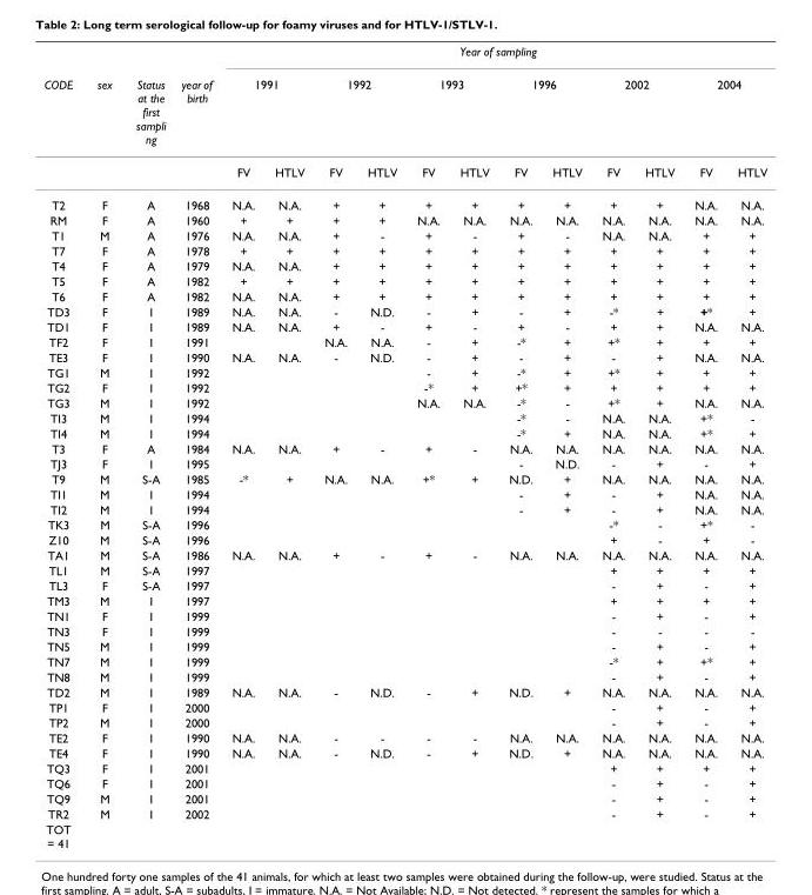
<table><thead><tr><td rowspan="3">CODE</td><td rowspan="3">sex</td><td rowspan="3">Status at the first sampli ng</td><td rowspan="3">year of birth</td><td colspan="12">Year of sampling</td></tr><tr><td colspan="2">1991</td><td colspan="2">1992</td><td colspan="2">1993</td><td colspan="2">1996</td><td colspan="2">2002</td><td colspan="2">2004</td></tr><tr><td>FV</td><td>HTLV</td><td>FV</td><td>HTLV</td><td>FV</td><td>HTLV</td><td>FV</td><td>HTLV</td><td>FV</td><td>HTLV</td><td>FV</td><td>HTLV</td></tr></thead><tbody><tr><td>T2</td><td>F</td><td>A</td><td>1968</td><td>N.A.</td><td>N.A.</td><td>+</td><td>+</td><td>+</td><td>+</td><td>+</td><td>+</td><td>+</td><td>+</td><td>N.A.</td><td>N.A.</td></tr><tr><td>RM</td><td>F</td><td>A</td><td>1960</td><td>+</td><td>+</td><td>+</td><td>+</td><td>N.A.</td><td>N.A.</td><td>N.A.</td><td>N.A.</td><td>N.A.</td><td>N.A.</td><td>N.A.</td><td>N.A.</td></tr><tr><td>T1</td><td>M</td><td>A</td><td>1976</td><td>N.A.</td><td>N.A.</td><td>+</td><td>-</td><td>+</td><td>-</td><td>+</td><td>-</td><td>N.A.</td><td>N.A.</td><td>+</td><td>+</td></tr><tr><td>T7</td><td>F</td><td>A</td><td>1978</td><td>+</td><td>+</td><td>+</td><td>+</td><td>+</td><td>+</td><td>+</td><td>+</td><td>+</td><td>+</td><td>+</td><td>+</td></tr><tr><td>T4</td><td>F</td><td>A</td><td>1979</td><td>N.A.</td><td>N.A.</td><td>+</td><td>+</td><td>+</td><td>+</td><td>+</td><td>+</td><td>+</td><td>+</td><td>+</td><td>+</td></tr><tr><td>T5</td><td>F</td><td>A</td><td>1982</td><td>+</td><td>+</td><td>+</td><td>+</td><td>+</td><td>+</td><td>+</td><td>+</td><td>+</td><td>+</td><td>+</td><td>+</td></tr><tr><td>T6</td><td>F</td><td>A</td><td>1982</td><td>N.A.</td><td>N.A.</td><td>+</td><td>+</td><td>+</td><td>+</td><td>+</td><td>+</td><td>+</td><td>+</td><td>+</td><td>+</td></tr><tr><td>TD3</td><td>F</td><td>I</td><td>1989</td><td>N.A.</td><td>N.A.</td><td>-</td><td>N.D.</td><td>-</td><td>+</td><td>-</td><td>+</td><td>-*</td><td>+</td><td>+*</td><td>+</td></tr><tr><td>TD1</td><td>F</td><td>I</td><td>1989</td><td>N.A.</td><td>N.A.</td><td>+</td><td>-</td><td>+</td><td>-</td><td>+</td><td>-</td><td>+</td><td>+</td><td>N.A.</td><td>N.A.</td></tr><tr><td>TF2</td><td>F</td><td>I</td><td>1991</td><td></td><td></td><td>N.A.</td><td>N.A.</td><td>-</td><td>+</td><td>-*</td><td>+</td><td>+*</td><td>+</td><td>+</td><td>+</td></tr><tr><td>TE3</td><td>F</td><td>I</td><td>1990</td><td>N.A.</td><td>N.A.</td><td>-</td><td>N.D.</td><td>-</td><td>+</td><td>-</td><td>+</td><td>-</td><td>+</td><td>N.A.</td><td>N.A.</td></tr><tr><td>TG1</td><td>M</td><td>I</td><td>1992</td><td></td><td></td><td></td><td></td><td>-</td><td>+</td><td>-*</td><td>+</td><td>+*</td><td>+</td><td>+</td><td>+</td></tr><tr><td>TG2</td><td>F</td><td>I</td><td>1992</td><td></td><td></td><td></td><td></td><td>-*</td><td>+</td><td>+*</td><td>+</td><td>+</td><td>+</td><td>+</td><td>+</td></tr><tr><td>TG3</td><td>M</td><td>I</td><td>1992</td><td></td><td></td><td></td><td></td><td>N.A.</td><td>N.A.</td><td>-*</td><td>-</td><td>+*</td><td>+</td><td>N.A.</td><td>N.A.</td></tr><tr><td>TI3</td><td>M</td><td>I</td><td>1994</td><td></td><td></td><td></td><td></td><td></td><td></td><td>-*</td><td>-</td><td>N.A.</td><td>N.A.</td><td>+*</td><td>-</td></tr><tr><td>TI4</td><td>M</td><td>I</td><td>1994</td><td></td><td></td><td></td><td></td><td></td><td></td><td>-*</td><td>+</td><td>N.A.</td><td>N.A.</td><td>+*</td><td>+</td></tr><tr><td>T3</td><td>F</td><td>A</td><td>1984</td><td>N.A.</td><td>N.A.</td><td>+</td><td>-</td><td>+</td><td>-</td><td>N.A.</td><td>N.A.</td><td>N.A.</td><td>N.A.</td><td>N.A.</td><td>N.A.</td></tr><tr><td>TJ3</td><td>F</td><td>I</td><td>1995</td><td></td><td></td><td></td><td></td><td></td><td></td><td>-</td><td>N.D.</td><td>-</td><td>+</td><td>-</td><td>+</td></tr><tr><td>T9</td><td>M</td><td>S-A</td><td>1985</td><td>-*</td><td>+</td><td>N.A.</td><td>N.A.</td><td>+*</td><td>+</td><td>N.D.</td><td>+</td><td>N.A.</td><td>N.A.</td><td>N.A.</td><td>N.A.</td></tr><tr><td>TI1</td><td>M</td><td>I</td><td>1994</td><td></td><td></td><td></td><td></td><td></td><td></td><td>-</td><td>+</td><td>-</td><td>+</td><td>N.A.</td><td>N.A.</td></tr><tr><td>TI2</td><td>M</td><td>I</td><td>1994</td><td></td><td></td><td></td><td></td><td></td><td></td><td>-</td><td>+</td><td>-</td><td>+</td><td>N.A.</td><td>N.A.</td></tr><tr><td>TK3</td><td>M</td><td>S-A</td><td>1996</td><td></td><td></td><td></td><td></td><td></td><td></td><td></td><td></td><td>-*</td><td>-</td><td>+*</td><td>-</td></tr><tr><td>Z10</td><td>M</td><td>S-A</td><td>1996</td><td></td><td></td><td></td><td></td><td></td><td></td><td></td><td></td><td>+</td><td>-</td><td>+</td><td>-</td></tr><tr><td>TA1</td><td>M</td><td>S-A</td><td>1986</td><td>N.A.</td><td>N.A.</td><td>+</td><td>-</td><td>+</td><td>-</td><td>N.A.</td><td>N.A.</td><td>N.A.</td><td>N.A.</td><td>N.A.</td><td>N.A.</td></tr><tr><td>TL1</td><td>M</td><td>S-A</td><td>1997</td><td></td><td></td><td></td><td></td><td></td><td></td><td></td><td></td><td>+</td><td>+</td><td>+</td><td>+</td></tr><tr><td>TL3</td><td>F</td><td>S-A</td><td>1997</td><td></td><td></td><td></td><td></td><td></td><td></td><td></td><td></td><td>-</td><td>+</td><td>-</td><td>+</td></tr><tr><td>TM3</td><td>M</td><td>I</td><td>1997</td><td></td><td></td><td></td><td></td><td></td><td></td><td></td><td></td><td>+</td><td>+</td><td>+</td><td>+</td></tr><tr><td>TN1</td><td>F</td><td>I</td><td>1999</td><td></td><td></td><td></td><td></td><td></td><td></td><td></td><td></td><td>-</td><td>+</td><td>-</td><td>+</td></tr><tr><td>TN3</td><td>F</td><td>I</td><td>1999</td><td></td><td></td><td></td><td></td><td></td><td></td><td></td><td></td><td>-</td><td>-</td><td>-</td><td>-</td></tr><tr><td>TN5</td><td>M</td><td>I</td><td>1999</td><td></td><td></td><td></td><td></td><td></td><td></td><td></td><td></td><td>-</td><td>+</td><td>-</td><td>+</td></tr><tr><td>TN7</td><td>M</td><td>I</td><td>1999</td><td></td><td></td><td></td><td></td><td></td><td></td><td></td><td></td><td>-*</td><td>+</td><td>+*</td><td>+</td></tr><tr><td>TN8</td><td>M</td><td>I</td><td>1999</td><td></td><td></td><td></td><td></td><td></td><td></td><td></td><td></td><td>-</td><td>+</td><td>-</td><td>+</td></tr><tr><td>TD2</td><td>M</td><td>I</td><td>1989</td><td>N.A.</td><td>N.A.</td><td>-</td><td>N.D.</td><td>-</td><td>+</td><td>N.D.</td><td>+</td><td>N.A.</td><td>N.A.</td><td>N.A.</td><td>N.A.</td></tr><tr><td>TP1</td><td>F</td><td>I</td><td>2000</td><td></td><td></td><td></td><td></td><td></td><td></td><td></td><td></td><td>-</td><td>+</td><td>-</td><td>+</td></tr><tr><td>TP2</td><td>M</td><td>I</td><td>2000</td><td></td><td></td><td></td><td></td><td></td><td></td><td></td><td></td><td>-</td><td>+</td><td>-</td><td>+</td></tr><tr><td>TE2</td><td>F</td><td>I</td><td>1990</td><td>N.A.</td><td>N.A.</td><td>-</td><td>-</td><td>-</td><td>-</td><td>N.A.</td><td>N.A.</td><td>N.A.</td><td>N.A.</td><td>N.A.</td><td>N.A.</td></tr><tr><td>TE4</td><td>F</td><td>I</td><td>1990</td><td>N.A.</td><td>N.A.</td><td>-</td><td>N.D.</td><td>-</td><td>+</td><td>N.D.</td><td>+</td><td>N.A.</td><td>N.A.</td><td>N.A.</td><td>N.A.</td></tr><tr><td>TQ3</td><td>F</td><td>I</td><td>2001</td><td></td><td></td><td></td><td></td><td></td><td></td><td></td><td></td><td>+</td><td>+</td><td>+</td><td>+</td></tr><tr><td>TQ6</td><td>F</td><td>I</td><td>2001</td><td></td><td></td><td></td><td></td><td></td><td></td><td></td><td></td><td>-</td><td>+</td><td>-</td><td>+</td></tr><tr><td>TQ9</td><td>M</td><td>I</td><td>2001</td><td></td><td></td><td></td><td></td><td></td><td></td><td></td><td></td><td>-</td><td>+</td><td>-</td><td>+</td></tr><tr><td>TR2</td><td>M</td><td>I</td><td>2002</td><td></td><td></td><td></td><td></td><td></td><td></td><td></td><td></td><td>-</td><td>+</td><td>-</td><td>+</td></tr><tr><td>TOT = 41</td><td></td><td></td><td></td><td></td><td></td><td></td><td></td><td></td><td></td><td></td><td></td><td></td><td></td><td></td><td></td></tr></tbody></table>